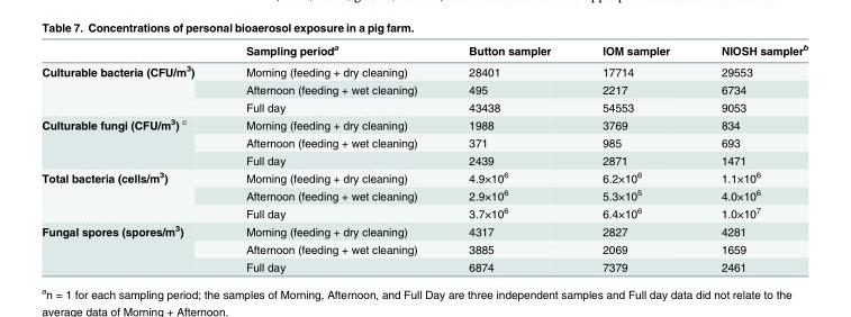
<table><thead><tr><td></td><td>Sampling period<sup>a</sup></td><td>Button sampler</td><td>IOM sampler</td><td>NIOSH sampler<sup>b</sup></td></tr></thead><tbody><tr><td rowspan="3">Culturable bacteria (CFU/m<sup>3</sup>)</td><td>Morning (feeding + dry cleaning)</td><td>28401</td><td>17714</td><td>29553</td></tr><tr><td>Afternoon (feeding + wet cleaning)</td><td>495</td><td>2217</td><td>6734</td></tr><tr><td>Full day</td><td>43438</td><td>54553</td><td>9053</td></tr><tr><td rowspan="3">Culturable fungi (CFU/m<sup>3</sup>) <sup>c</sup></td><td>Morning (feeding + dry cleaning)</td><td>1988</td><td>3769</td><td>834</td></tr><tr><td>Afternoon (feeding + wet cleaning)</td><td>371</td><td>985</td><td>693</td></tr><tr><td>Full day</td><td>2439</td><td>2871</td><td>1471</td></tr><tr><td rowspan="3">Total bacteria (cells/m<sup>3</sup>)</td><td>Morning (feeding + dry cleaning)</td><td>4.9×10<sup>6</sup></td><td>6.2×10<sup>6</sup></td><td>1.1×10<sup>6</sup></td></tr><tr><td>Afternoon (feeding + wet cleaning)</td><td>2.9×10<sup>6</sup></td><td>5.3×10<sup>5</sup></td><td>4.0×10<sup>6</sup></td></tr><tr><td>Full day</td><td>3.7×10<sup>6</sup></td><td>6.4×10<sup>6</sup></td><td>1.0×10<sup>7</sup></td></tr><tr><td rowspan="3">Fungal spores (spores/m<sup>3</sup>)</td><td>Morning (feeding + dry cleaning)</td><td>4317</td><td>2827</td><td>4281</td></tr><tr><td>Afternoon (feeding + wet cleaning)</td><td>3885</td><td>2069</td><td>1659</td></tr><tr><td>Full day</td><td>6874</td><td>7379</td><td>2461</td></tr></tbody></table>